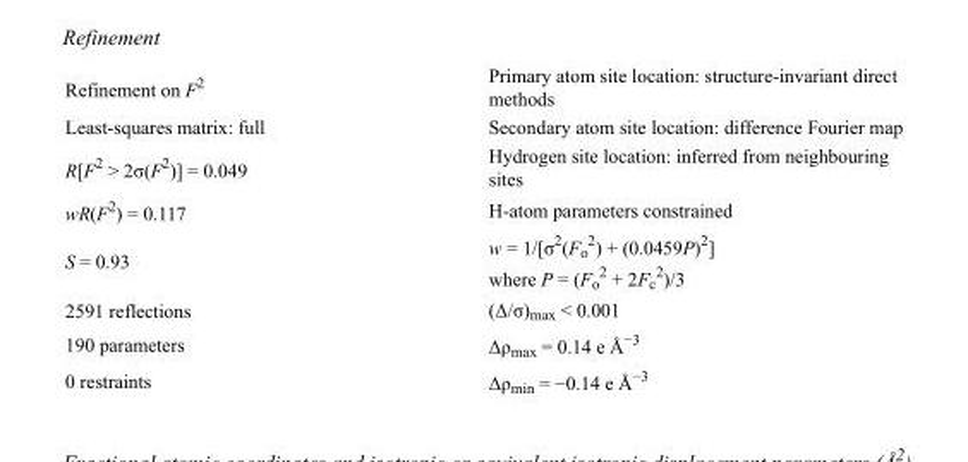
<table><tbody><tr><td>Refinement on F<sup>2</sup></td><td>Primary atom site location: structure-invariant direct methods</td></tr><tr><td>Least-squares matrix: full</td><td>Secondary atom site location: difference Fourier map</td></tr><tr><td>R[F<sup>2</sup> &gt; 2σ(F<sup>2</sup>)] = 0.049</td><td>Hydrogen site location: inferred from neighbouring sites</td></tr><tr><td>wR(F<sup>2</sup>) = 0.117</td><td>H-atom parameters constrained</td></tr><tr><td>S = 0.93</td><td>w = 1/[σ<sup>2</sup>(F<sub>o</sub> <sup>2</sup>) + (0.0459P)<sup>2</sup>] where P = (F<sub>o</sub> <sup>2</sup> + 2F<sub>c</sub> <sup>2</sup>)/3</td></tr><tr><td>2591 reflections</td><td>(Δ/σ)<sub>max</sub> &lt; 0.001</td></tr><tr><td>190 parameters</td><td>Δρ<sub>max</sub> = 0.14 e Å<sup>−3</sup></td></tr><tr><td>0 restraints</td><td>Δρ<sub>min</sub> = −0.14 e Å<sup>−3</sup></td></tr></tbody></table>